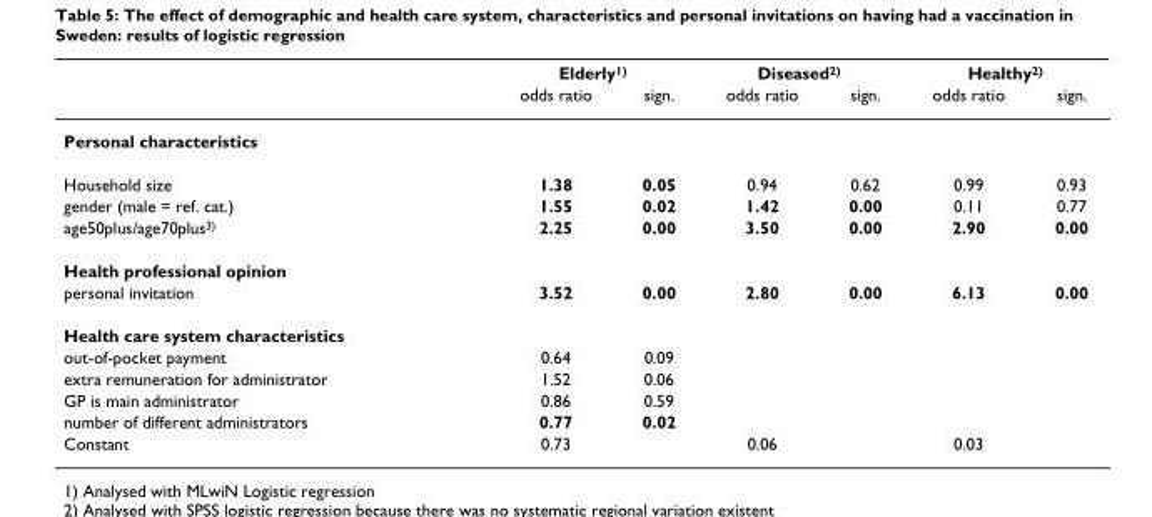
<table><thead><tr><td rowspan="2"></td><td colspan="2">Elderly<sup>1)</sup></td><td colspan="2">Diseased<sup>2)</sup></td><td colspan="2">Healthy<sup>2)</sup></td></tr><tr><td>odds ratio</td><td>sign.</td><td>odds ratio</td><td>sign.</td><td>odds ratio</td><td>sign.</td></tr></thead><tbody><tr><td colspan="7">Personal characteristics</td></tr><tr><td>Household size</td><td>1.38</td><td>0.05</td><td>0.94</td><td>0.62</td><td>0.99</td><td>0.93</td></tr><tr><td>gender (male = ref. cat.)</td><td>1.55</td><td>0.02</td><td>1.42</td><td>0.00</td><td>0.11</td><td>0.77</td></tr><tr><td>age50plus/age70plus<sup>3)</sup></td><td>2.25</td><td>0.00</td><td>3.50</td><td>0.00</td><td>2.90</td><td>0.00</td></tr><tr><td colspan="7">Health professional opinion</td></tr><tr><td>personal invitation</td><td>3.52</td><td>0.00</td><td>2.80</td><td>0.00</td><td>6.13</td><td>0.00</td></tr><tr><td colspan="7">Health care system characteristics</td></tr><tr><td>out-of-pocket payment</td><td>0.64</td><td>0.09</td><td></td><td></td><td></td><td></td></tr><tr><td>extra remuneration for administrator</td><td>1.52</td><td>0.06</td><td></td><td></td><td></td><td></td></tr><tr><td>GP is main administrator</td><td>0.86</td><td>0.59</td><td></td><td></td><td></td><td></td></tr><tr><td>number of different administrators</td><td>0.77</td><td>0.02</td><td></td><td></td><td></td><td></td></tr><tr><td>Constant</td><td>0.73</td><td></td><td>0.06</td><td></td><td>0.03</td><td></td></tr></tbody></table>